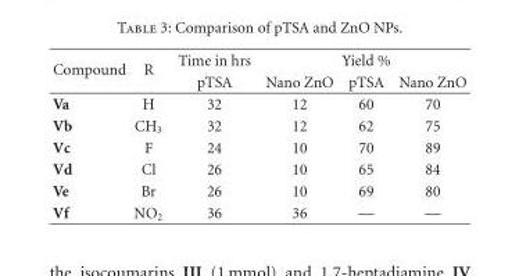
<table><thead><tr><td rowspan="2">Compound</td><td rowspan="2">R</td><td rowspan="2">Time in hrs pTSA</td><td colspan="3">Yield %</td></tr><tr><td>Nano ZnO</td><td>pTSA</td><td>Nano ZnO</td></tr></thead><tbody><tr><td>Va</td><td>H</td><td>32</td><td>12</td><td>60</td><td>70</td></tr><tr><td>Vb</td><td>CH<sub>3</sub></td><td>32</td><td>12</td><td>62</td><td>75</td></tr><tr><td>Vc</td><td>F</td><td>24</td><td>10</td><td>70</td><td>89</td></tr><tr><td>Vd</td><td>Cl</td><td>26</td><td>10</td><td>65</td><td>84</td></tr><tr><td>Ve</td><td>Br</td><td>26</td><td>10</td><td>69</td><td>80</td></tr><tr><td>Vf</td><td>NO<sub>2</sub></td><td>36</td><td>36</td><td>—</td><td>—</td></tr></tbody></table>